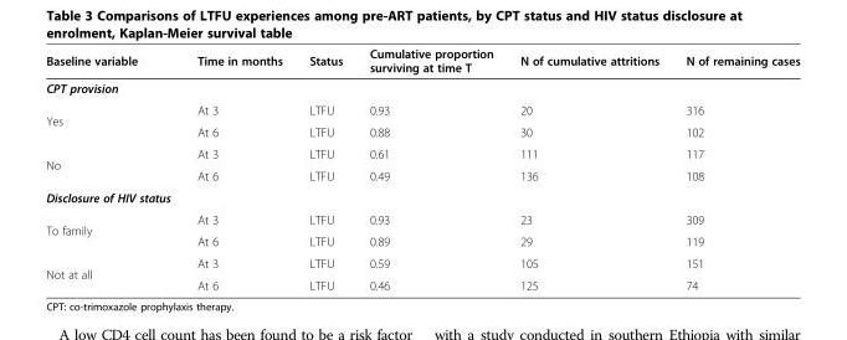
<table><thead><tr><td>Baseline variable</td><td>Time in months</td><td>Status</td><td>Cumulative proportion surviving at time T</td><td>N of cumulative attritions</td><td>N of remaining cases</td></tr></thead><tbody><tr><td colspan="6">CPT provision</td></tr><tr><td rowspan="2">Yes</td><td>At 3</td><td>LTFU</td><td>0.93</td><td>20</td><td>316</td></tr><tr><td>At 6</td><td>LTFU</td><td>0.88</td><td>30</td><td>102</td></tr><tr><td rowspan="2">No</td><td>At 3</td><td>LTFU</td><td>0.61</td><td>111</td><td>117</td></tr><tr><td>At 6</td><td>LTFU</td><td>0.49</td><td>136</td><td>108</td></tr><tr><td colspan="6">Disclosure of HIV status</td></tr><tr><td rowspan="2">To family</td><td>At 3</td><td>LTFU</td><td>0.93</td><td>23</td><td>309</td></tr><tr><td>At 6</td><td>LTFU</td><td>0.89</td><td>29</td><td>119</td></tr><tr><td rowspan="2">Not at all</td><td>At 3</td><td>LTFU</td><td>0.59</td><td>105</td><td>151</td></tr><tr><td>At 6</td><td>LTFU</td><td>0.46</td><td>125</td><td>74</td></tr></tbody></table>